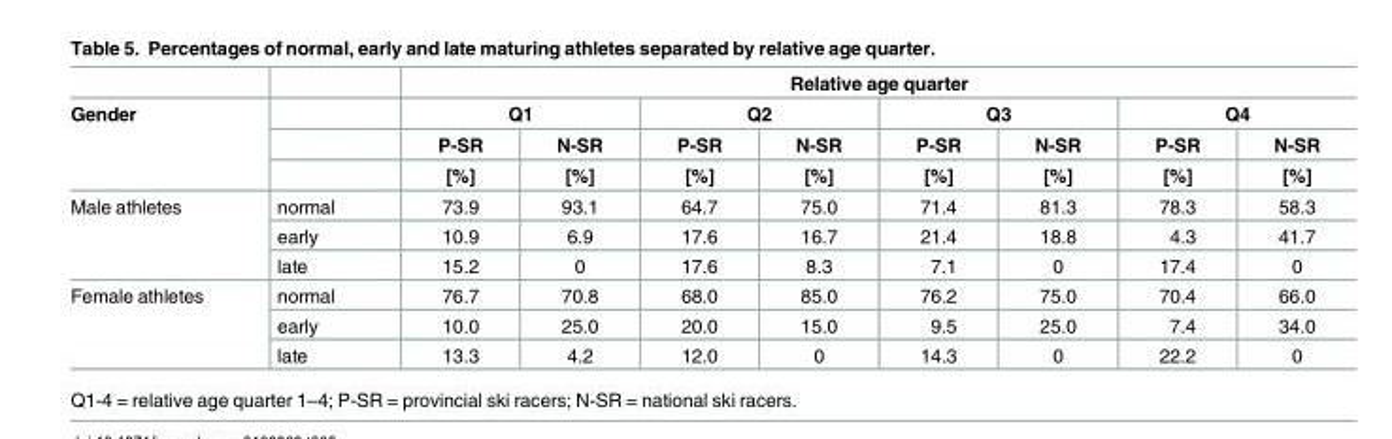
<table><thead><tr><td rowspan="4">Gender</td><td rowspan="4"></td><td colspan="8">Relative age quarter</td></tr><tr><td colspan="2">Q1</td><td colspan="2">Q2</td><td colspan="2">Q3</td><td colspan="2">Q4</td></tr><tr><td rowspan="2">P-SR [%]</td><td rowspan="2">N-SR [%]</td><td rowspan="2">P-SR [%]</td><td rowspan="2">N-SR [%]</td><td rowspan="2">P-SR [%]</td><td rowspan="2">N-SR [%]</td><td rowspan="2">P-SR [%]</td><td rowspan="2">N-SR [%]</td></tr><tr></tr></thead><tbody><tr><td rowspan="3">Male athletes</td><td>normal</td><td>73.9</td><td>93.1</td><td>64.7</td><td>75.0</td><td>71.4</td><td>81.3</td><td>78.3</td><td>58.3</td></tr><tr><td>early</td><td>10.9</td><td>6.9</td><td>17.6</td><td>16.7</td><td>21.4</td><td>18.8</td><td>4.3</td><td>41.7</td></tr><tr><td>late</td><td>15.2</td><td>0</td><td>17.6</td><td>8.3</td><td>7.1</td><td>0</td><td>17.4</td><td>0</td></tr><tr><td rowspan="3">Female athletes</td><td>normal</td><td>76.7</td><td>70.8</td><td>68.0</td><td>85.0</td><td>76.2</td><td>75.0</td><td>70.4</td><td>66.0</td></tr><tr><td>early</td><td>10.0</td><td>25.0</td><td>20.0</td><td>15.0</td><td>9.5</td><td>25.0</td><td>7.4</td><td>34.0</td></tr><tr><td>late</td><td>13.3</td><td>4.2</td><td>12.0</td><td>0</td><td>14.3</td><td>0</td><td>22.2</td><td>0</td></tr></tbody></table>